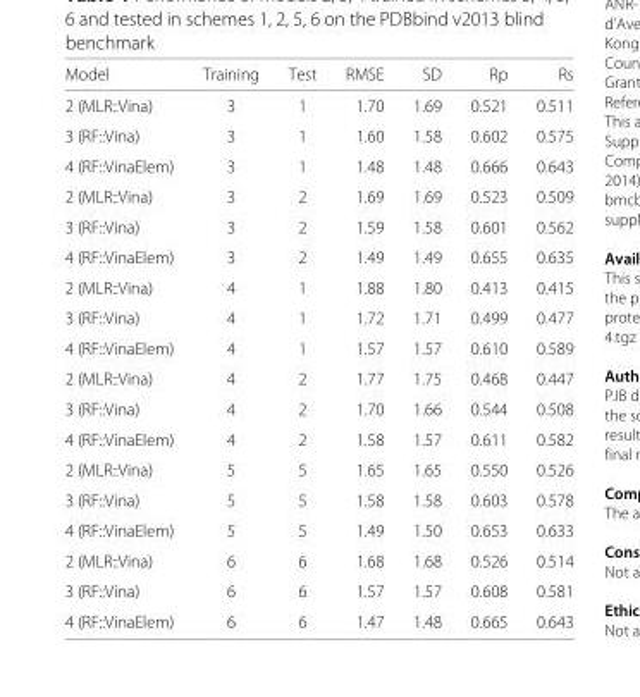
<table><thead><tr><td>Model</td><td>Training</td><td>Test</td><td>RMSE</td><td>SD</td><td>Rp</td><td>Rs</td></tr></thead><tbody><tr><td>2 (MLR::Vina)</td><td>3</td><td>1</td><td>1.70</td><td>1.69</td><td>0.521</td><td>0.511</td></tr><tr><td>3 (RF::Vina)</td><td>3</td><td>1</td><td>1.60</td><td>1.58</td><td>0.602</td><td>0.575</td></tr><tr><td>4 (RF::VinaElem)</td><td>3</td><td>1</td><td>1.48</td><td>1.48</td><td>0.666</td><td>0.643</td></tr><tr><td>2 (MLR::Vina)</td><td>3</td><td>2</td><td>1.69</td><td>1.69</td><td>0.523</td><td>0.509</td></tr><tr><td>3 (RF::Vina)</td><td>3</td><td>2</td><td>1.59</td><td>1.58</td><td>0.601</td><td>0.562</td></tr><tr><td>4 (RF::VinaElem)</td><td>3</td><td>2</td><td>1.49</td><td>1.49</td><td>0.655</td><td>0.635</td></tr><tr><td>2 (MLR::Vina)</td><td>4</td><td>1</td><td>1.88</td><td>1.80</td><td>0.413</td><td>0.415</td></tr><tr><td>3 (RF::Vina)</td><td>4</td><td>1</td><td>1.72</td><td>1.71</td><td>0.499</td><td>0.477</td></tr><tr><td>4 (RF::VinaElem)</td><td>4</td><td>1</td><td>1.57</td><td>1.57</td><td>0.610</td><td>0.589</td></tr><tr><td>2 (MLR::Vina)</td><td>4</td><td>2</td><td>1.77</td><td>1.75</td><td>0.468</td><td>0.447</td></tr><tr><td>3 (RF::Vina)</td><td>4</td><td>2</td><td>1.70</td><td>1.66</td><td>0.544</td><td>0.508</td></tr><tr><td>4 (RF::VinaElem)</td><td>4</td><td>2</td><td>1.58</td><td>1.57</td><td>0.611</td><td>0.582</td></tr><tr><td>2 (MLR::Vina)</td><td>5</td><td>5</td><td>1.65</td><td>1.65</td><td>0.550</td><td>0.526</td></tr><tr><td>3 (RF::Vina)</td><td>5</td><td>5</td><td>1.58</td><td>1.58</td><td>0.603</td><td>0.578</td></tr><tr><td>4 (RF::VinaElem)</td><td>5</td><td>5</td><td>1.49</td><td>1.50</td><td>0.653</td><td>0.633</td></tr><tr><td>2 (MLR::Vina)</td><td>6</td><td>6</td><td>1.68</td><td>1.68</td><td>0.526</td><td>0.514</td></tr><tr><td>3 (RF::Vina)</td><td>6</td><td>6</td><td>1.57</td><td>1.57</td><td>0.608</td><td>0.581</td></tr><tr><td>4 (RF::VinaElem)</td><td>6</td><td>6</td><td>1.47</td><td>1.48</td><td>0.665</td><td>0.643</td></tr></tbody></table>